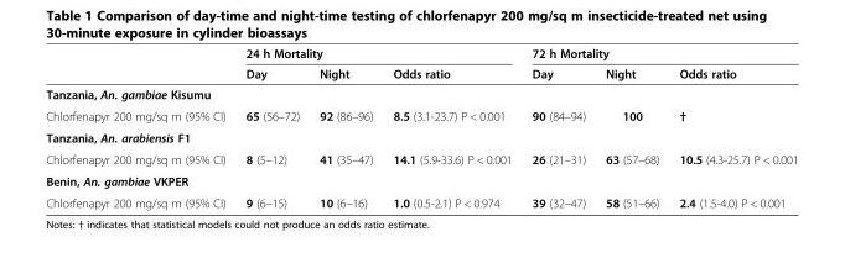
<table><thead><tr><td rowspan="2"></td><td colspan="3">24 h Mortality</td><td colspan="3">72 h Mortality</td></tr><tr><td>Day</td><td>Night</td><td>Odds ratio</td><td>Day</td><td>Night</td><td>Odds ratio</td></tr></thead><tbody><tr><td colspan="7">Tanzania, An. gambiae Kisumu</td></tr><tr><td>Chlorfenapyr 200 mg/sq m (95% CI)</td><td>65 (56–72)</td><td>92 (86–96)</td><td>8.5 (3.1-23.7) P &lt; 0.001</td><td>90 (84–94)</td><td>100</td><td>†</td></tr><tr><td colspan="7">Tanzania, An. arabiensis F1</td></tr><tr><td>Chlorfenapyr 200 mg/sq m (95% CI)</td><td>8 (5–12)</td><td>41 (35–47)</td><td>14.1 (5.9-33.6) P &lt; 0.001</td><td>26 (21–31)</td><td>63 (57–68)</td><td>10.5 (4.3-25.7) P &lt; 0.001</td></tr><tr><td colspan="7">Benin, An. gambiae VKPER</td></tr><tr><td>Chlorfenapyr 200 mg/sq m (95% CI)</td><td>9 (6–15)</td><td>10 (6–16)</td><td>1.0 (0.5-2.1) P &lt; 0.974</td><td>39 (32–47)</td><td>58 (51–66)</td><td>2.4 (1.5-4.0) P &lt; 0.001</td></tr></tbody></table>